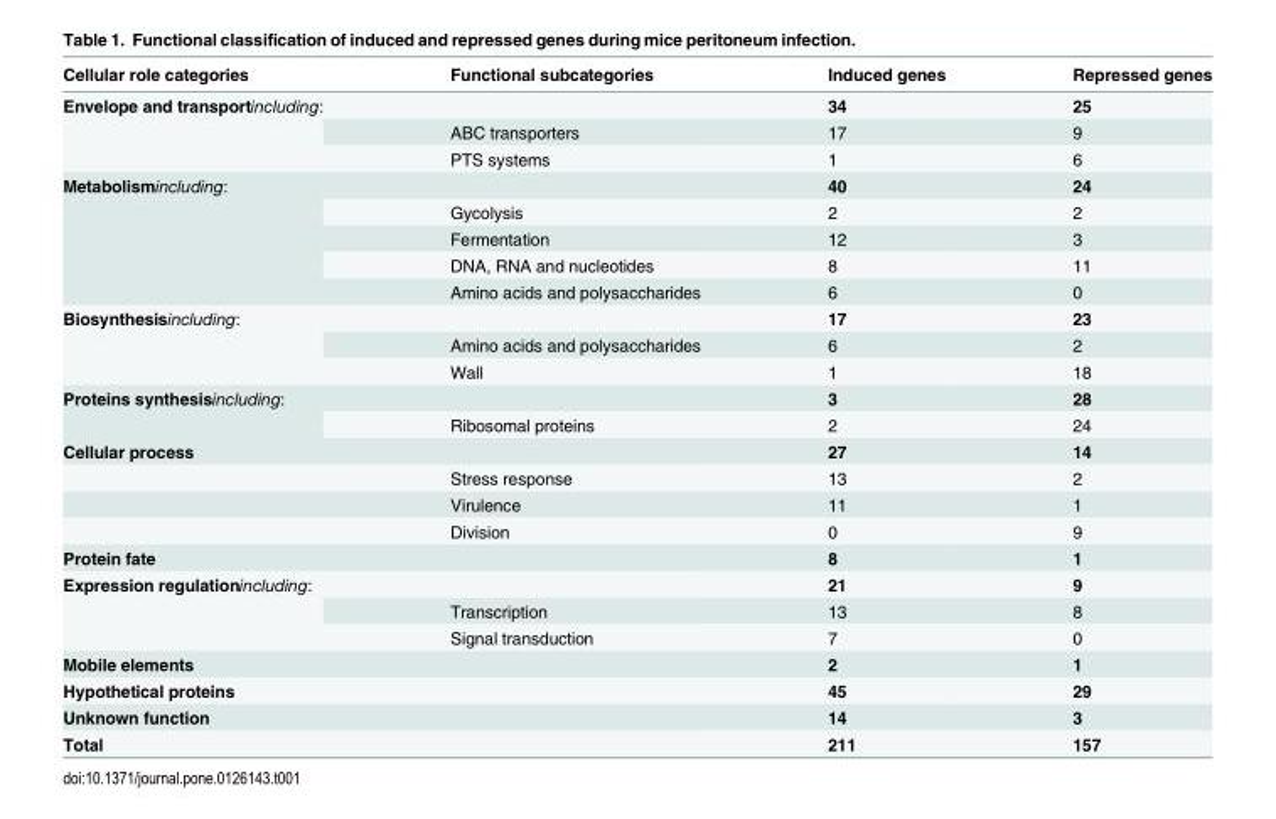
<table><thead><tr><td>Cellular role categories</td><td>Functional subcategories</td><td>Induced genes</td><td>Repressed genes</td></tr></thead><tbody><tr><td rowspan="3">Envelope and transportincluding:</td><td></td><td>34</td><td>25</td></tr><tr><td>ABC transporters</td><td>17</td><td>9</td></tr><tr><td>PTS systems</td><td>1</td><td>6</td></tr><tr><td rowspan="5">Metabolismincluding:</td><td></td><td>40</td><td>24</td></tr><tr><td>Gycolysis</td><td>2</td><td>2</td></tr><tr><td>Fermentation</td><td>12</td><td>3</td></tr><tr><td>DNA, RNA and nucleotides</td><td>8</td><td>11</td></tr><tr><td>Amino acids and polysaccharides</td><td>6</td><td>0</td></tr><tr><td rowspan="3">Biosynthesisincluding:</td><td></td><td>17</td><td>23</td></tr><tr><td>Amino acids and polysaccharides</td><td>6</td><td>2</td></tr><tr><td>Wall</td><td>1</td><td>18</td></tr><tr><td rowspan="2">Proteins synthesisincluding:</td><td></td><td>3</td><td>28</td></tr><tr><td>Ribosomal proteins</td><td>2</td><td>24</td></tr><tr><td rowspan="4">Cellular process</td><td></td><td>27</td><td>14</td></tr><tr><td>Stress response</td><td>13</td><td>2</td></tr><tr><td>Virulence</td><td>11</td><td>1</td></tr><tr><td>Division</td><td>0</td><td>9</td></tr><tr><td>Protein fate</td><td></td><td>8</td><td>1</td></tr><tr><td rowspan="3">Expression regulationincluding:</td><td></td><td>21</td><td>9</td></tr><tr><td>Transcription</td><td>13</td><td>8</td></tr><tr><td>Signal transduction</td><td>7</td><td>0</td></tr><tr><td>Mobile elements</td><td></td><td>2</td><td>1</td></tr><tr><td>Hypothetical proteins</td><td></td><td>45</td><td>29</td></tr><tr><td>Unknown function</td><td></td><td>14</td><td>3</td></tr><tr><td>Total</td><td></td><td>211</td><td>157</td></tr></tbody></table>